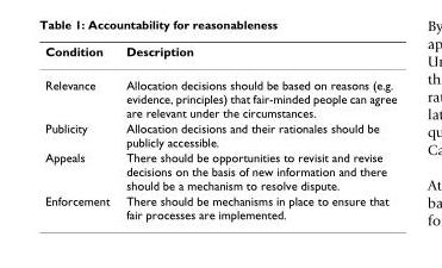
<table><thead><tr><td>Condition</td><td>Description</td></tr></thead><tbody><tr><td>Relevance</td><td>Allocation decisions should be based on reasons (e.g. evidence, principles) that fair-minded people can agree are relevant under the circumstances.</td></tr><tr><td>Publicity</td><td>Allocation decisions and their rationales should be publicly accessible.</td></tr><tr><td>Appeals</td><td>There should be opportunities to revisit and revise decisions on the basis of new information and there should be a mechanism to resolve dispute.</td></tr><tr><td>Enforcement</td><td>There should be mechanisms in place to ensure that fair processes are implemented.</td></tr></tbody></table>